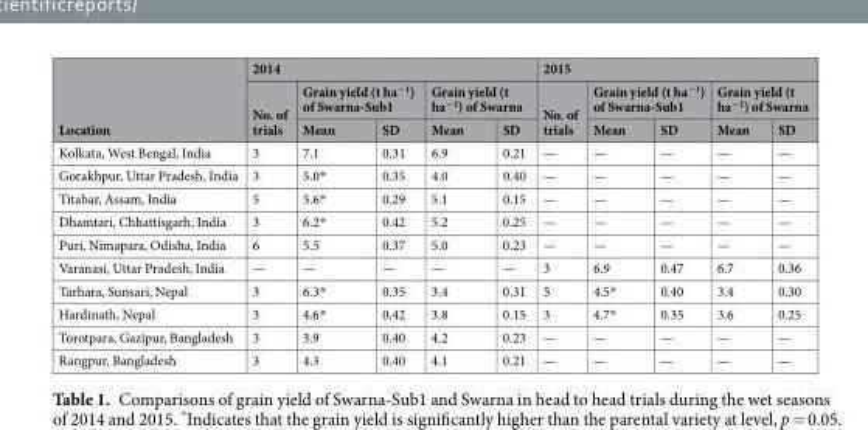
<table><thead><tr><td rowspan="3">Location</td><td colspan="5">2014</td><td colspan="5">2015</td></tr><tr><td rowspan="2">No. of trials</td><td colspan="2">Grain yield (t ha<sup>−1</sup>) of Swarna-Sub1</td><td colspan="2">Grain yield (t ha<sup>−1</sup>) of Swarna</td><td rowspan="2">No. of trials</td><td colspan="2">Grain yield (t ha<sup>−1</sup>) of Swarna-Sub1</td><td colspan="2">Grain yield (t ha<sup>−1</sup>) of Swarna</td></tr><tr><td>Mean</td><td>SD</td><td>Mean</td><td>SD</td><td>Mean</td><td>SD</td><td>Mean</td><td>SD</td></tr></thead><tbody><tr><td>Kolkata, West Bengal, India</td><td>3</td><td>7.1</td><td>0.31</td><td>6.9</td><td>0.21</td><td>—</td><td>—</td><td>—</td><td>—</td><td>—</td></tr><tr><td>Gorakhpur, Uttar Pradesh, India</td><td>3</td><td>5.0*</td><td>0.35</td><td>4.0</td><td>0.40</td><td>—</td><td>—</td><td>—</td><td>—</td><td>—</td></tr><tr><td>Titabar, Assam, India</td><td>5</td><td>5.6*</td><td>0.29</td><td>5.1</td><td>0.15</td><td>—</td><td>—</td><td>—</td><td>—</td><td>—</td></tr><tr><td>Dhamtari, Chhattisgarh, India</td><td>3</td><td>6.2*</td><td>0.42</td><td>5.2</td><td>0.25</td><td>—</td><td>—</td><td>—</td><td>—</td><td>—</td></tr><tr><td>Puri, Nimapara, Odisha, India</td><td>6</td><td>5.5</td><td>0.37</td><td>5.0</td><td>0.23</td><td>—</td><td>—</td><td>—</td><td>—</td><td>—</td></tr><tr><td>Varanasi, Uttar Pradesh, India</td><td>—</td><td>—</td><td>—</td><td>—</td><td>—</td><td>3</td><td>6.9</td><td>0.47</td><td>6.7</td><td>0.36</td></tr><tr><td>Tarhara, Sunsari, Nepal</td><td>3</td><td>6.3*</td><td>0.35</td><td>3.4</td><td>0.31</td><td>5</td><td>4.5*</td><td>0.40</td><td>3.4</td><td>0.30</td></tr><tr><td>Hardinath, Nepal</td><td>3</td><td>4.6*</td><td>0.42</td><td>3.8</td><td>0.15</td><td>3</td><td>4.7*</td><td>0.35</td><td>3.6</td><td>0.25</td></tr><tr><td>Torotpara, Gazipur, Bangladesh</td><td>3</td><td>3.9</td><td>0.40</td><td>4.2</td><td>0.23</td><td>—</td><td>—</td><td>—</td><td>—</td><td>—</td></tr><tr><td>Rangpur, Bangladesh</td><td>3</td><td>4.3</td><td>0.40</td><td>4.1</td><td>0.21</td><td>—</td><td>—</td><td>—</td><td>—</td><td>—</td></tr></tbody></table>